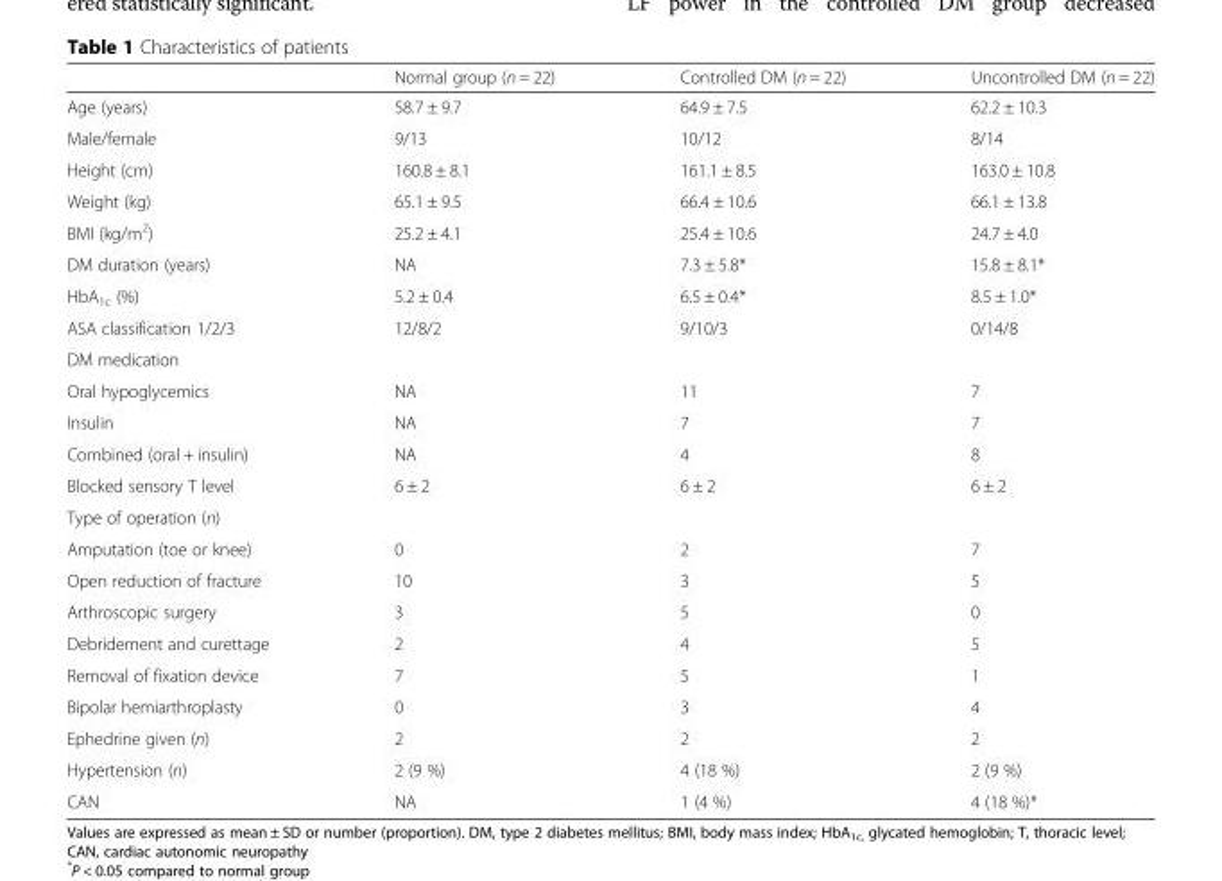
<table><thead><tr><td></td><td>Normal group (n = 22)</td><td>Controlled DM (n = 22)</td><td>Uncontrolled DM (n = 22)</td></tr></thead><tbody><tr><td>Age (years)</td><td>58.7 ± 9.7</td><td>64.9 ± 7.5</td><td>62.2 ± 10.3</td></tr><tr><td>Male/female</td><td>9/13</td><td>10/12</td><td>8/14</td></tr><tr><td>Height (cm)</td><td>160.8 ± 8.1</td><td>161.1 ± 8.5</td><td>163.0 ± 10.8</td></tr><tr><td>Weight (kg)</td><td>65.1 ± 9.5</td><td>66.4 ± 10.6</td><td>66.1 ± 13.8</td></tr><tr><td>BMI (kg/m<sup>2</sup>)</td><td>25.2 ± 4.1</td><td>25.4 ± 10.6</td><td>24.7 ± 4.0</td></tr><tr><td>DM duration (years)</td><td>NA</td><td>7.3 ± 5.8*</td><td>15.8 ± 8.1*</td></tr><tr><td>HbA<sub>1c</sub> (%)</td><td>5.2 ± 0.4</td><td>6.5 ± 0.4*</td><td>8.5 ± 1.0*</td></tr><tr><td>ASA classification 1/2/3</td><td>12/8/2</td><td>9/10/3</td><td>0/14/8</td></tr><tr><td colspan="4">DM medication</td></tr><tr><td>Oral hypoglycemics</td><td>NA</td><td>11</td><td>7</td></tr><tr><td>Insulin</td><td>NA</td><td>7</td><td>7</td></tr><tr><td>Combined (oral + insulin)</td><td>NA</td><td>4</td><td>8</td></tr><tr><td>Blocked sensory T level</td><td>6 ± 2</td><td>6 ± 2</td><td>6 ± 2</td></tr><tr><td colspan="4">Type of operation (n)</td></tr><tr><td>Amputation (toe or knee)</td><td>0</td><td>2</td><td>7</td></tr><tr><td>Open reduction of fracture</td><td>10</td><td>3</td><td>5</td></tr><tr><td>Arthroscopic surgery</td><td>3</td><td>5</td><td>0</td></tr><tr><td>Debridement and curettage</td><td>2</td><td>4</td><td>5</td></tr><tr><td>Removal of fixation device</td><td>7</td><td>5</td><td>1</td></tr><tr><td>Bipolar hemiarthroplasty</td><td>0</td><td>3</td><td>4</td></tr><tr><td>Ephedrine given (n)</td><td>2</td><td>2</td><td>2</td></tr><tr><td>Hypertension (n)</td><td>2 (9 %)</td><td>4 (18 %)</td><td>2 (9 %)</td></tr><tr><td>CAN</td><td>NA</td><td>1 (4 %)</td><td>4 (18 %)*</td></tr></tbody></table>